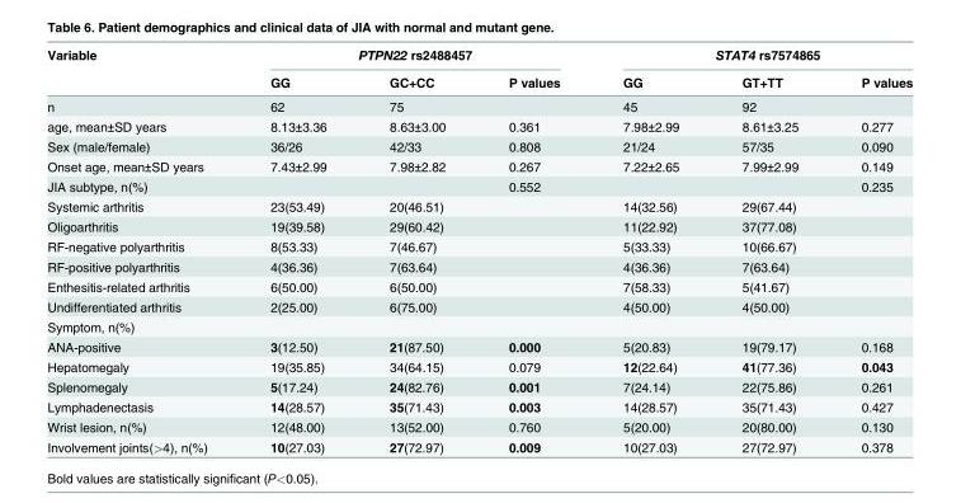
<table><thead><tr><td rowspan="2">Variable</td><td colspan="3">PTPN22 rs2488457</td><td colspan="3">STAT4 rs7574865</td></tr><tr><td>GG</td><td>GC+CC</td><td>P values</td><td>GG</td><td>GT+TT</td><td>P values</td></tr></thead><tbody><tr><td>n</td><td>62</td><td>75</td><td></td><td>45</td><td>92</td><td></td></tr><tr><td>age, mean±SD years</td><td>8.13±3.36</td><td>8.63±3.00</td><td>0.361</td><td>7.98±2.99</td><td>8.61±3.25</td><td>0.277</td></tr><tr><td>Sex (male/female)</td><td>36/26</td><td>42/33</td><td>0.808</td><td>21/24</td><td>57/35</td><td>0.090</td></tr><tr><td>Onset age, mean±SD years</td><td>7.43±2.99</td><td>7.98±2.82</td><td>0.267</td><td>7.22±2.65</td><td>7.99±2.99</td><td>0.149</td></tr><tr><td>JIA subtype, n(%)</td><td></td><td></td><td>0.552</td><td></td><td></td><td>0.235</td></tr><tr><td>Systemic arthritis</td><td>23(53.49)</td><td>20(46.51)</td><td></td><td>14(32.56)</td><td>29(67.44)</td><td></td></tr><tr><td>Oligoarthritis</td><td>19(39.58)</td><td>29(60.42)</td><td></td><td>11(22.92)</td><td>37(77.08)</td><td></td></tr><tr><td>RF-negative polyarthritis</td><td>8(53.33)</td><td>7(46.67)</td><td></td><td>5(33.33)</td><td>10(66.67)</td><td></td></tr><tr><td>RF-positive polyarthritis</td><td>4(36.36)</td><td>7(63.64)</td><td></td><td>4(36.36)</td><td>7(63.64)</td><td></td></tr><tr><td>Enthesitis-related arthritis</td><td>6(50.00)</td><td>6(50.00)</td><td></td><td>7(58.33)</td><td>5(41.67)</td><td></td></tr><tr><td>Undifferentiated arthritis</td><td>2(25.00)</td><td>6(75.00)</td><td></td><td>4(50.00)</td><td>4(50.00)</td><td></td></tr><tr><td colspan="7">Symptom, n(%)</td></tr><tr><td>ANA-positive</td><td>3(12.50)</td><td>21(87.50)</td><td>0.000</td><td>5(20.83)</td><td>19(79.17)</td><td>0.168</td></tr><tr><td>Hepatomegaly</td><td>19(35.85)</td><td>34(64.15)</td><td>0.079</td><td>12(22.64)</td><td>41(77.36)</td><td>0.043</td></tr><tr><td>Splenomegaly</td><td>5(17.24)</td><td>24(82.76)</td><td>0.001</td><td>7(24.14)</td><td>22(75.86)</td><td>0.261</td></tr><tr><td>Lymphadenectasis</td><td>14(28.57)</td><td>35(71.43)</td><td>0.003</td><td>14(28.57)</td><td>35(71.43)</td><td>0.427</td></tr><tr><td>Wrist lesion, n(%)</td><td>12(48.00)</td><td>13(52.00)</td><td>0.760</td><td>5(20.00)</td><td>20(80.00)</td><td>0.130</td></tr><tr><td>Involvement joints(&gt;4), n(%)</td><td>10(27.03)</td><td>27(72.97)</td><td>0.009</td><td>10(27.03)</td><td>27(72.97)</td><td>0.378</td></tr></tbody></table>